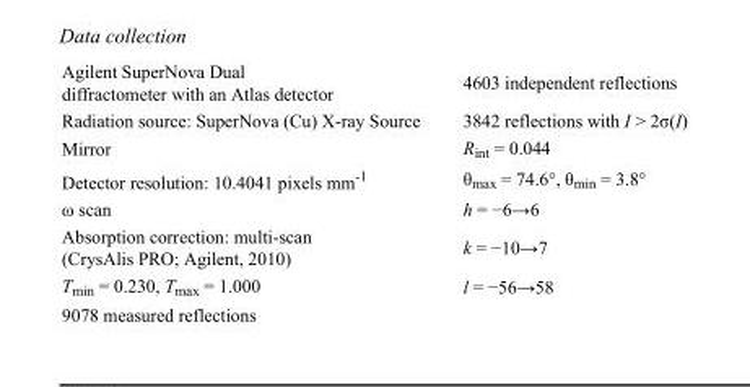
<table><tbody><tr><td>Agilent SuperNova Dual diffractometer with an Atlas detector</td><td>4603 independent reflections</td></tr><tr><td>Radiation source: SuperNova (Cu) X-ray Source</td><td>3842 reflections with I &gt; 2σ(I)</td></tr><tr><td>Mirror</td><td>R<sub>int</sub> = 0.044</td></tr><tr><td>Detector resolution: 10.4041 pixels mm<sup>-1</sup></td><td>θ<sub>max</sub> = 74.6°, θ<sub>min</sub> = 3.8°</td></tr><tr><td>ω scan</td><td>h = −6→6</td></tr><tr><td>Absorption correction: multi-scan (CrysAlis PRO; Agilent, 2010)</td><td>k = −10→7</td></tr><tr><td>T<sub>min</sub> = 0.230, T<sub>max</sub> = 1.000</td><td>l = −56→58</td></tr><tr><td>9078 measured reflections</td><td></td></tr></tbody></table>